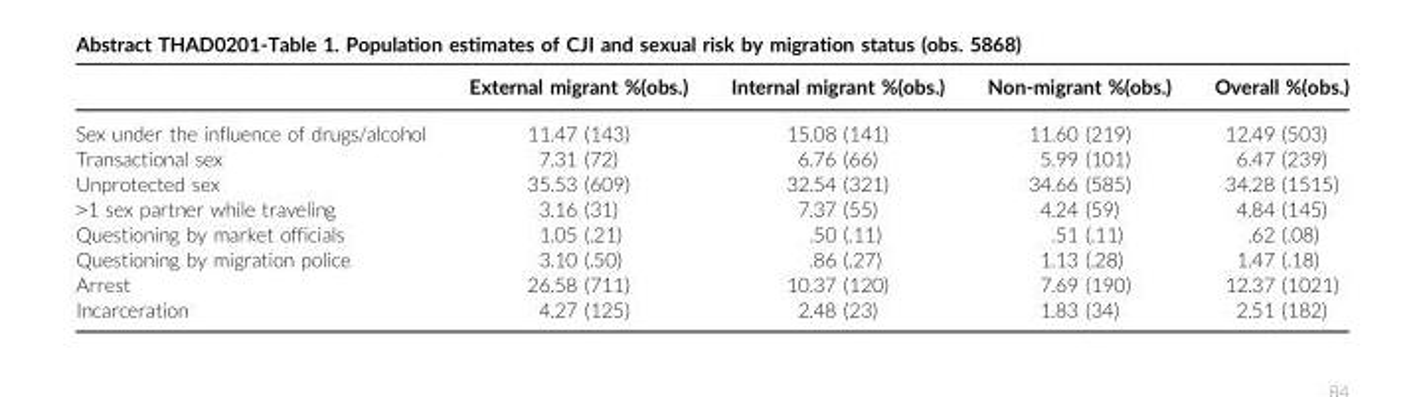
<table><thead><tr><td></td><td>External migrant %(obs.)</td><td>Internal migrant %(obs.)</td><td>Non-migrant %(obs.)</td><td>Overall %(obs.)</td></tr></thead><tbody><tr><td>Sex under the influence of drugs/alcohol</td><td>11.47 (143)</td><td>15.08 (141)</td><td>11.60 (219)</td><td>12.49 (503)</td></tr><tr><td>Transactional sex</td><td>7.31 (72)</td><td>6.76 (66)</td><td>5.99 (101)</td><td>6.47 (239)</td></tr><tr><td>Unprotected sex</td><td>35.53 (609)</td><td>32.54 (321)</td><td>34.66 (585)</td><td>34.28 (1515)</td></tr><tr><td>&gt;1 sex partner while traveling</td><td>3.16 (31)</td><td>7.37 (55)</td><td>4.24 (59)</td><td>4.84 (145)</td></tr><tr><td>Questioning by market officials</td><td>1.05 (.21)</td><td>.50 (.11)</td><td>.51 (.11)</td><td>.62 (.08)</td></tr><tr><td>Questioning by migration police</td><td>3.10 (.50)</td><td>.86 (.27)</td><td>1.13 (.28)</td><td>1.47 (.18)</td></tr><tr><td>Arrest</td><td>26.58 (711)</td><td>10.37 (120)</td><td>7.69 (190)</td><td>12.37 (1021)</td></tr><tr><td>Incarceration</td><td>4.27 (125)</td><td>2.48 (23)</td><td>1.83 (34)</td><td>2.51 (182)</td></tr></tbody></table>